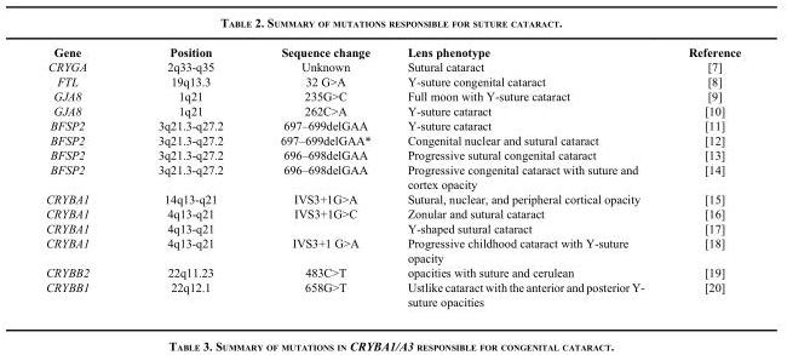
<table><thead><tr><td>Gene</td><td>Position</td><td>Sequence change</td><td>Lens phenotype</td><td>Reference</td></tr></thead><tbody><tr><td>CRYGA</td><td>2q33-q35</td><td>Unknown</td><td>Sutural cataract</td><td>[7]</td></tr><tr><td>FTL</td><td>19q13.3</td><td>32 G&gt;A</td><td>Y-suture congenital cataract</td><td>[8]</td></tr><tr><td>GJA8</td><td>1q21</td><td>235G&gt;C</td><td>Full moon with Y-suture cataract</td><td>[9]</td></tr><tr><td>GJA8</td><td>1q21</td><td>262C&gt;A</td><td>Y-suture cataract</td><td>[10]</td></tr><tr><td>BFSP2</td><td>3q21.3-q27.2</td><td>697–699delGAA</td><td>Y-suture cataract</td><td>[11]</td></tr><tr><td>BFSP2</td><td>3q21.3-q27.2</td><td>697–699delGAA*</td><td>Congenital nuclear and sutural cataract</td><td>[12]</td></tr><tr><td>BFSP2</td><td>3q21.3-q27.2</td><td>696–698delGAA</td><td>Progressive sutural congenital cataract</td><td>[13]</td></tr><tr><td>BFSP2</td><td>3q21.3-q27.2</td><td>696–698delGAA</td><td>Progressive congenital cataract with suture and cortex opacity</td><td>[14]</td></tr><tr><td>CRYBA1</td><td>14q13-q21</td><td>IVS3+1G&gt;A</td><td>Sutural, nuclear, and peripheral cortical opacity</td><td>[15]</td></tr><tr><td>CRYBA1</td><td>4q13-q21</td><td>IVS3+1G&gt;C</td><td>Zonular and sutural cataract</td><td>[16]</td></tr><tr><td>CRYBA1</td><td>4q13-q21</td><td></td><td>Y-shaped sutural cataract</td><td>[17]</td></tr><tr><td>CRYBA1</td><td>4q13-q21</td><td>IVS3+1 G&gt;A</td><td>Progressive childhood cataract with Y-suture opacity</td><td>[18]</td></tr><tr><td>CRYBB2</td><td>22q11.23</td><td>483C&gt;T</td><td>opacities with suture and cerulean</td><td>[19]</td></tr><tr><td>CRYBB1</td><td>22q12.1</td><td>658G&gt;T</td><td>Ustlike cataract with the anterior and posterior Y- suture opacities</td><td>[20]</td></tr></tbody></table>